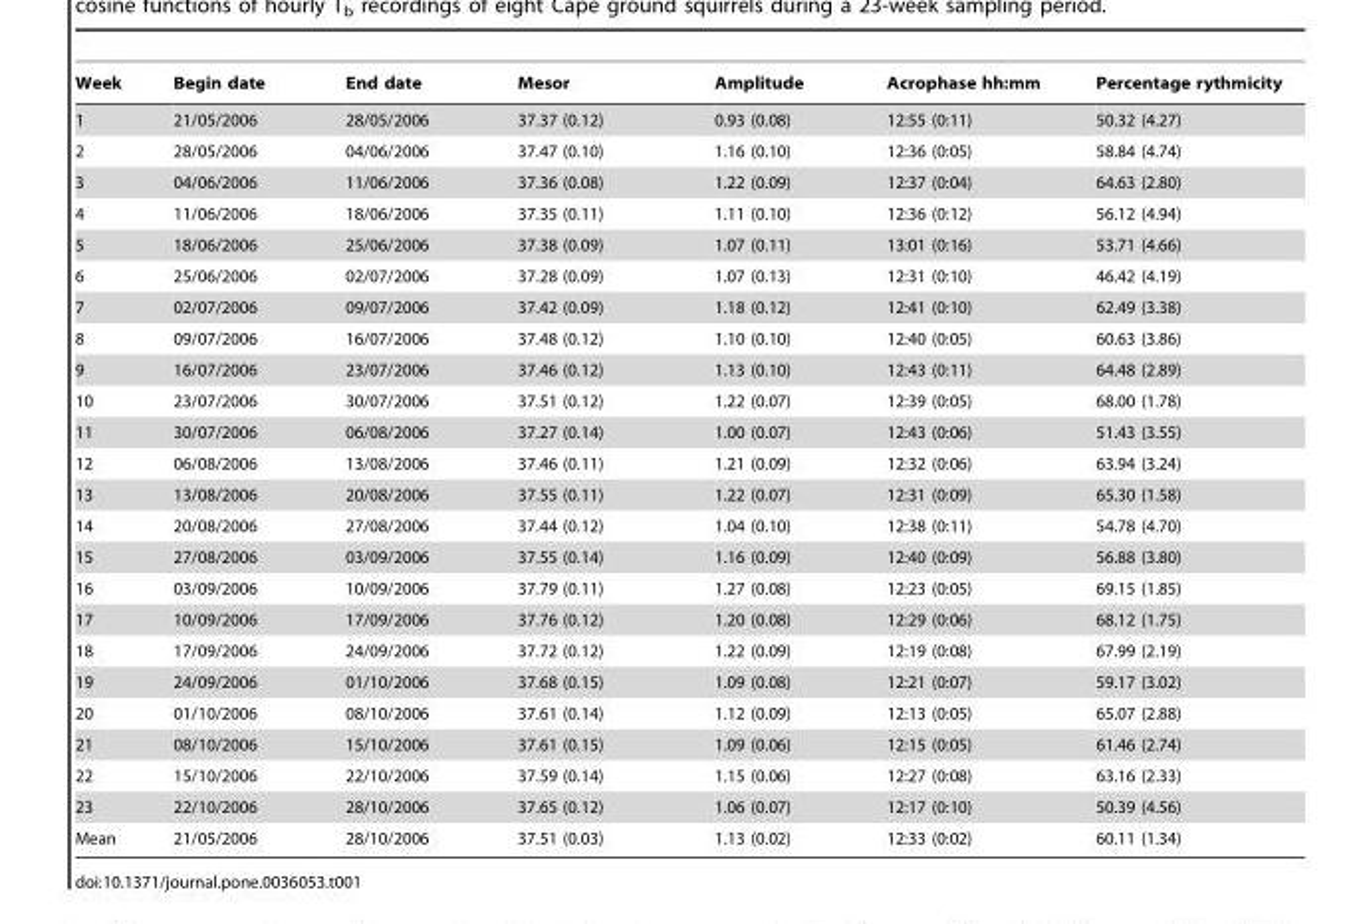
<table><thead><tr><td>Week</td><td>Begin date</td><td>End date</td><td>Mesor</td><td>Amplitude</td><td>Acrophase hh:mm</td><td>Percentage rythmicity</td></tr></thead><tbody><tr><td>1</td><td>21/05/2006</td><td>28/05/2006</td><td>37.37 (0.12)</td><td>0.93 (0.08)</td><td>12:55 (0:11)</td><td>50.32 (4.27)</td></tr><tr><td>2</td><td>28/05/2006</td><td>04/06/2006</td><td>37.47 (0.10)</td><td>1.16 (0.10)</td><td>12:36 (0:05)</td><td>58.84 (4.74)</td></tr><tr><td>3</td><td>04/06/2006</td><td>11/06/2006</td><td>37.36 (0.08)</td><td>1.22 (0.09)</td><td>12:37 (0:04)</td><td>64.63 (2.80)</td></tr><tr><td>4</td><td>11/06/2006</td><td>18/06/2006</td><td>37.35 (0.11)</td><td>1.11 (0.10)</td><td>12:36 (0:12)</td><td>56.12 (4.94)</td></tr><tr><td>5</td><td>18/06/2006</td><td>25/06/2006</td><td>37.38 (0.09)</td><td>1.07 (0.11)</td><td>13:01 (0:16)</td><td>53.71 (4.66)</td></tr><tr><td>6</td><td>25/06/2006</td><td>02/07/2006</td><td>37.28 (0.09)</td><td>1.07 (0.13)</td><td>12:31 (0:10)</td><td>46.42 (4.19)</td></tr><tr><td>7</td><td>02/07/2006</td><td>09/07/2006</td><td>37.42 (0.09)</td><td>1.18 (0.12)</td><td>12:41 (0:10)</td><td>62.49 (3.38)</td></tr><tr><td>8</td><td>09/07/2006</td><td>16/07/2006</td><td>37.48 (0.12)</td><td>1.10 (0.10)</td><td>12:40 (0:05)</td><td>60.63 (3.86)</td></tr><tr><td>9</td><td>16/07/2006</td><td>23/07/2006</td><td>37.46 (0.12)</td><td>1.13 (0.10)</td><td>12:43 (0:11)</td><td>64.48 (2.89)</td></tr><tr><td>10</td><td>23/07/2006</td><td>30/07/2006</td><td>37.51 (0.12)</td><td>1.22 (0.07)</td><td>12:39 (0:05)</td><td>68.00 (1.78)</td></tr><tr><td>11</td><td>30/07/2006</td><td>06/08/2006</td><td>37.27 (0.14)</td><td>1.00 (0.07)</td><td>12:43 (0:06)</td><td>51.43 (3.55)</td></tr><tr><td>12</td><td>06/08/2006</td><td>13/08/2006</td><td>37.46 (0.11)</td><td>1.21 (0.09)</td><td>12:32 (0:06)</td><td>63.94 (3.24)</td></tr><tr><td>13</td><td>13/08/2006</td><td>20/08/2006</td><td>37.55 (0.11)</td><td>1.22 (0.07)</td><td>12:31 (0:09)</td><td>65.30 (1.58)</td></tr><tr><td>14</td><td>20/08/2006</td><td>27/08/2006</td><td>37.44 (0.12)</td><td>1.04 (0.10)</td><td>12:38 (0:11)</td><td>54.78 (4.70)</td></tr><tr><td>15</td><td>27/08/2006</td><td>03/09/2006</td><td>37.55 (0.14)</td><td>1.16 (0.09)</td><td>12:40 (0:09)</td><td>56.88 (3.80)</td></tr><tr><td>16</td><td>03/09/2006</td><td>10/09/2006</td><td>37.79 (0.11)</td><td>1.27 (0.08)</td><td>12:23 (0:05)</td><td>69.15 (1.85)</td></tr><tr><td>17</td><td>10/09/2006</td><td>17/09/2006</td><td>37.76 (0.12)</td><td>1.20 (0.08)</td><td>12:29 (0:06)</td><td>68.12 (1.75)</td></tr><tr><td>18</td><td>17/09/2006</td><td>24/09/2006</td><td>37.72 (0.12)</td><td>1.22 (0.09)</td><td>12:19 (0:08)</td><td>67.99 (2.19)</td></tr><tr><td>19</td><td>24/09/2006</td><td>01/10/2006</td><td>37.68 (0.15)</td><td>1.09 (0.08)</td><td>12:21 (0:07)</td><td>59.17 (3.02)</td></tr><tr><td>20</td><td>01/10/2006</td><td>08/10/2006</td><td>37.61 (0.14)</td><td>1.12 (0.09)</td><td>12:13 (0:05)</td><td>65.07 (2.88)</td></tr><tr><td>21</td><td>08/10/2006</td><td>15/10/2006</td><td>37.61 (0.15)</td><td>1.09 (0.06)</td><td>12:15 (0:05)</td><td>61.46 (2.74)</td></tr><tr><td>22</td><td>15/10/2006</td><td>22/10/2006</td><td>37.59 (0.14)</td><td>1.15 (0.06)</td><td>12:27 (0:08)</td><td>63.16 (2.33)</td></tr><tr><td>23</td><td>22/10/2006</td><td>28/10/2006</td><td>37.65 (0.12)</td><td>1.06 (0.07)</td><td>12:17 (0:10)</td><td>50.39 (4.56)</td></tr><tr><td>Mean</td><td>21/05/2006</td><td>28/10/2006</td><td>37.51 (0.03)</td><td>1.13 (0.02)</td><td>12:33 (0:02)</td><td>60.11 (1.34)</td></tr></tbody></table>